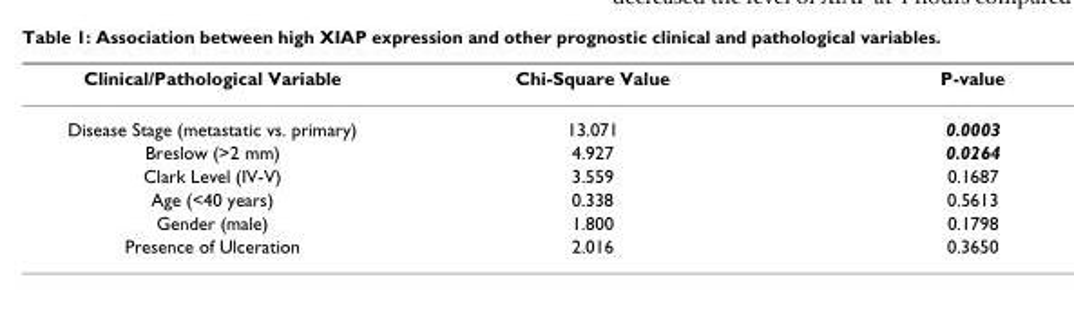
<table><thead><tr><td>Clinical/Pathological Variable</td><td>Chi-Square Value</td><td>P-value</td></tr></thead><tbody><tr><td>Disease Stage (metastatic vs. primary)</td><td>13.071</td><td>0.0003</td></tr><tr><td>Breslow (&gt;2 mm)</td><td>4.927</td><td>0.0264</td></tr><tr><td>Clark Level (IV-V)</td><td>3.559</td><td>0.1687</td></tr><tr><td>Age (&lt;40 years)</td><td>0.338</td><td>0.5613</td></tr><tr><td>Gender (male)</td><td>1.800</td><td>0.1798</td></tr><tr><td>Presence of Ulceration</td><td>2.016</td><td>0.3650</td></tr></tbody></table>